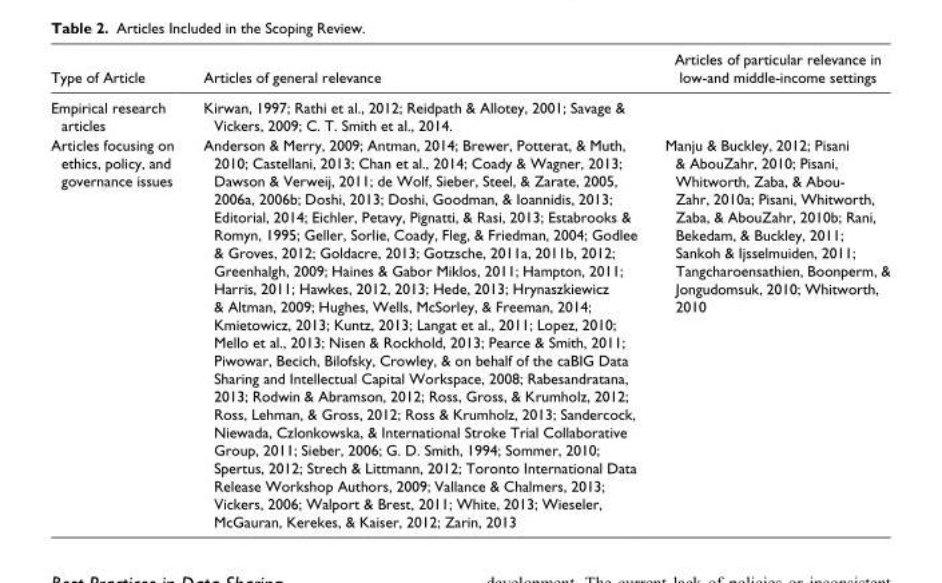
<table><thead><tr><td>Type of Article</td><td>Articles of general relevance</td><td>Articles of particular relevance in low-and middle-income settings</td></tr></thead><tbody><tr><td>Empirical research articles</td><td>Kirwan, 1997; Rathi et al., 2012; Reidpath &amp; Allotey, 2001; Savage &amp; Vickers, 2009; C. T. Smith et al., 2014.</td><td></td></tr><tr><td>Articles focusing on ethics, policy, and governance issues</td><td>Anderson &amp; Merry, 2009; Antman, 2014; Brewer, Potterat, &amp; Muth, 2010; Castellani, 2013; Chan et al., 2014; Coady &amp; Wagner, 2013; Dawson &amp; Verweij, 2011; de Wolf, Sieber, Steel, &amp; Zarate, 2005, 2006a, 2006b; Doshi, 2013; Doshi, Goodman, &amp; Ioannidis, 2013; Editorial, 2014; Eichler, Petavy, Pignatti, &amp; Rasi, 2013; Estabrooks &amp; Romyn, 1995; Geller, Sorlie, Coady, Fleg, &amp; Friedman, 2004; Godlee &amp; Groves, 2012; Goldacre, 2013; Gotzsche, 2011a, 2011b, 2012; Greenhalgh, 2009; Haines &amp; Gabor Miklos, 2011; Hampton, 2011; Harris, 2011; Hawkes, 2012, 2013; Hede, 2013; Hrynaszkiewicz &amp; Altman, 2009; Hughes, Wells, McSorley, &amp; Freeman, 2014; Kmietowicz, 2013; Kuntz, 2013; Langat et al., 2011; Lopez, 2010; Mello et al., 2013; Nisen &amp; Rockhold, 2013; Pearce &amp; Smith, 2011; Piwowar, Becich, Bilofsky, Crowley, &amp; on behalf of the caBIG Data Sharing and Intellectual Capital Workspace, 2008; Rabesandratana, 2013; Rodwin &amp; Abramson, 2012; Ross, Gross, &amp; Krumholz, 2012; Ross, Lehman, &amp; Gross, 2012; Ross &amp; Krumholz, 2013; Sandercock, Niewada, Czlonkowska, &amp; International Stroke Trial Collaborative Group, 2011; Sieber, 2006; G. D. Smith, 1994; Sommer, 2010; Spertus, 2012; Strech &amp; Littmann, 2012; Toronto International Data Release Workshop Authors, 2009; Vallance &amp; Chalmers, 2013; Vickers, 2006; Walport &amp; Brest, 2011; White, 2013; Wieseler, McGauran, Kerekes, &amp; Kaiser, 2012; Zarin, 2013</td><td>Manju &amp; Buckley, 2012; Pisani &amp; AbouZahr, 2010; Pisani, Whitworth, Zaba, &amp; Abou- Zahr, 2010a; Pisani, Whitworth, Zaba, &amp; AbouZahr, 2010b; Rani, Bekedam, &amp; Buckley, 2011; Sankoh &amp; Ijsselmuiden, 2011; Tangcharoensathien, Boonperm, &amp; Jongudomsuk, 2010; Whitworth, 2010</td></tr></tbody></table>